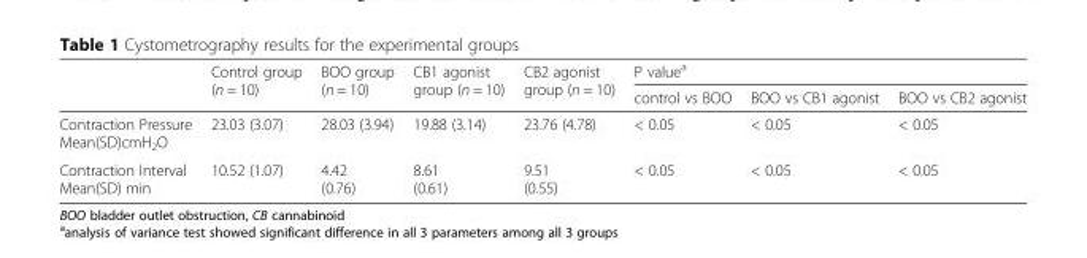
<table><thead><tr><td rowspan="2"></td><td rowspan="2">Control group (n = 10)</td><td rowspan="2">BOO group (n = 10)</td><td rowspan="2">CB1 agonist group (n = 10)</td><td rowspan="2">CB2 agonist group (n = 10)</td><td colspan="3">P value<sup>a</sup></td></tr><tr><td>control vs BOO</td><td>BOO vs CB1 agonist</td><td>BOO vs CB2 agonist</td></tr></thead><tbody><tr><td>Contraction Pressure Mean(SD)cmH<sub>2</sub>O</td><td>23.03 (3.07)</td><td>28.03 (3.94)</td><td>19.88 (3.14)</td><td>23.76 (4.78)</td><td>&lt; 0.05</td><td>&lt; 0.05</td><td>&lt; 0.05</td></tr><tr><td>Contraction Interval Mean(SD) min</td><td>10.52 (1.07)</td><td>4.42 (0.76)</td><td>8.61 (0.61)</td><td>9.51 (0.55)</td><td>&lt; 0.05</td><td>&lt; 0.05</td><td>&lt; 0.05</td></tr></tbody></table>